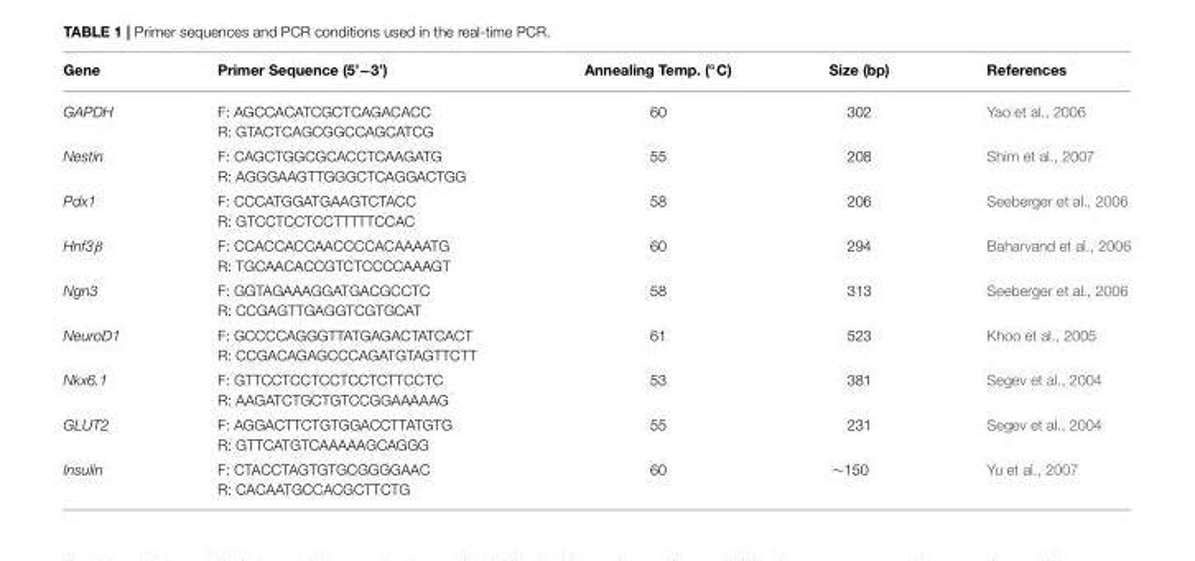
<table><thead><tr><td>Gene</td><td>Primer Sequence (5’−3’)</td><td>Annealing Temp. (◦C)</td><td>Size (bp)</td><td>References</td></tr></thead><tbody><tr><td>GAPDH</td><td>F: AGCCACATCGCTCAGACACC R: GTACTCAGCGGCCAGCATCG</td><td>60</td><td>302</td><td>Yao et al., 2006</td></tr><tr><td>Nestin</td><td>F: CAGCTGGCGCACCTCAAGATG R: AGGGAAGTTGGGCTCAGGACTGG</td><td>55</td><td>208</td><td>Shim et al., 2007</td></tr><tr><td>Pdx1</td><td>F: CCCATGGATGAAGTCTACC R: GTCCTCCTCCTTTTTCCAC</td><td>58</td><td>206</td><td>Seeberger et al., 2006</td></tr><tr><td>Hnf3β</td><td>F: CCACCACCAACCCCACAAAATG R: TGCAACACCGTCTCCCCAAAGT</td><td>60</td><td>294</td><td>Baharvand et al., 2006</td></tr><tr><td>Ngn3</td><td>F: GGTAGAAAGGATGACGCCTC R: CCGAGTTGAGGTCGTGCAT</td><td>58</td><td>313</td><td>Seeberger et al., 2006</td></tr><tr><td>NeuroD1</td><td>F: GCCCCAGGGTTATGAGACTATCACT R: CCGACAGAGCCCAGATGTAGTTCTT</td><td>61</td><td>523</td><td>Khoo et al., 2005</td></tr><tr><td>Nkx6.1</td><td>F: GTTCCTCCTCCTCCTCTTCCTC R: AAGATCTGCTGTCCGGAAAAAG</td><td>53</td><td>381</td><td>Segev et al., 2004</td></tr><tr><td>GLUT2</td><td>F: AGGACTTCTGTGGACCTTATGTG R: GTTCATGTCAAAAAGCAGGG</td><td>55</td><td>231</td><td>Segev et al., 2004</td></tr><tr><td>Insulin</td><td>F: CTACCTAGTGTGCGGGGAAC R: CACAATGCCACGCTTCTG</td><td>60</td><td>∼150</td><td>Yu et al., 2007</td></tr></tbody></table>